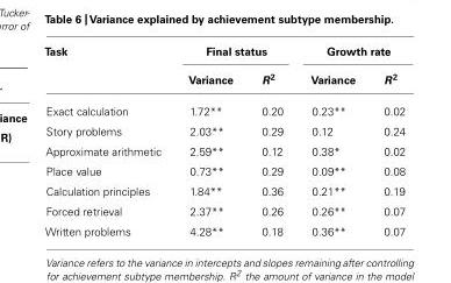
<table><thead><tr><td rowspan="2">Task</td><td colspan="2">Final status</td><td colspan="2">Growth rate</td></tr><tr><td>Variance</td><td>R<sup>2</sup></td><td>Variance</td><td>R<sup>2</sup></td></tr></thead><tbody><tr><td>Exact calculation</td><td>1.72**</td><td>0.20</td><td>0.23**</td><td>0.02</td></tr><tr><td>Story problems</td><td>2.03**</td><td>0.29</td><td>0.12</td><td>0.24</td></tr><tr><td>Approximate arithmetic</td><td>2.59**</td><td>0.12</td><td>0.38*</td><td>0.02</td></tr><tr><td>Place value</td><td>0.73**</td><td>0.29</td><td>0.09**</td><td>0.08</td></tr><tr><td>Calculation principles</td><td>1.84**</td><td>0.36</td><td>0.21**</td><td>0.19</td></tr><tr><td>Forced retrieval</td><td>2.37**</td><td>0.26</td><td>0.26**</td><td>0.07</td></tr><tr><td>Written problems</td><td>4.28**</td><td>0.18</td><td>0.36**</td><td>0.07</td></tr></tbody></table>